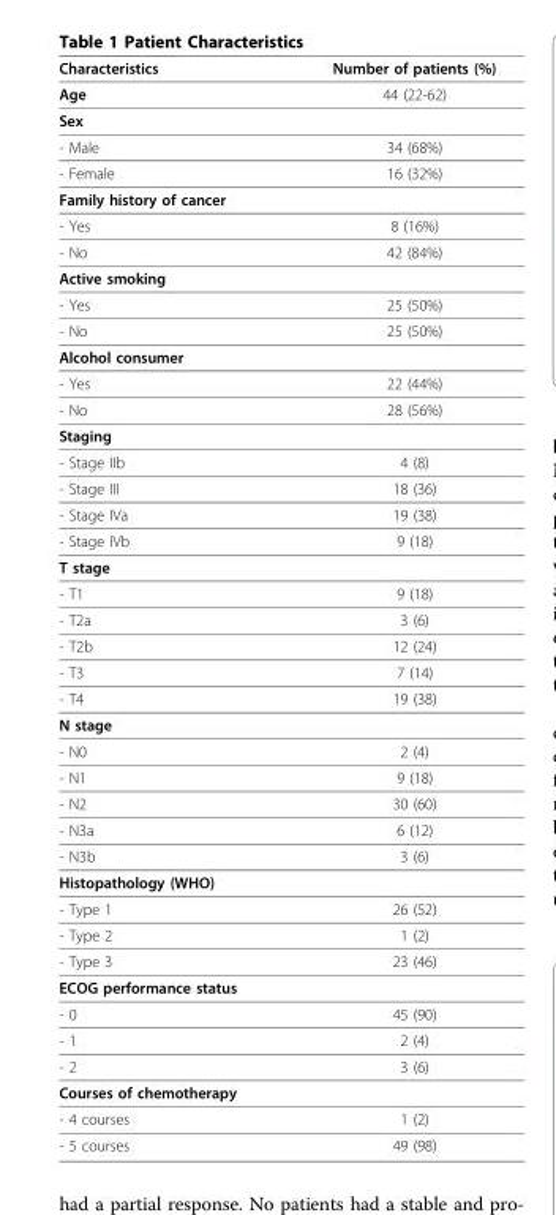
<table><thead><tr><td>Characteristics</td><td>Number of patients (%)</td></tr></thead><tbody><tr><td>Age</td><td>44 (22-62)</td></tr><tr><td colspan="2">Sex</td></tr><tr><td>- Male</td><td>34 (68%)</td></tr><tr><td>- Female</td><td>16 (32%)</td></tr><tr><td colspan="2">Family history of cancer</td></tr><tr><td>- Yes</td><td>8 (16%)</td></tr><tr><td>- No</td><td>42 (84%)</td></tr><tr><td colspan="2">Active smoking</td></tr><tr><td>- Yes</td><td>25 (50%)</td></tr><tr><td>- No</td><td>25 (50%)</td></tr><tr><td colspan="2">Alcohol consumer</td></tr><tr><td>- Yes</td><td>22 (44%)</td></tr><tr><td>- No</td><td>28 (56%)</td></tr><tr><td colspan="2">Staging</td></tr><tr><td>- Stage IIb</td><td>4 (8)</td></tr><tr><td>- Stage III</td><td>18 (36)</td></tr><tr><td>- Stage IVa</td><td>19 (38)</td></tr><tr><td>- Stage IVb</td><td>9 (18)</td></tr><tr><td colspan="2">T stage</td></tr><tr><td>- T1</td><td>9 (18)</td></tr><tr><td>- T2a</td><td>3 (6)</td></tr><tr><td>- T2b</td><td>12 (24)</td></tr><tr><td>- T3</td><td>7 (14)</td></tr><tr><td>- T4</td><td>19 (38)</td></tr><tr><td colspan="2">N stage</td></tr><tr><td>- N0</td><td>2 (4)</td></tr><tr><td>- N1</td><td>9 (18)</td></tr><tr><td>- N2</td><td>30 (60)</td></tr><tr><td>- N3a</td><td>6 (12)</td></tr><tr><td>- N3b</td><td>3 (6)</td></tr><tr><td colspan="2">Histopathology (WHO)</td></tr><tr><td>- Type 1</td><td>26 (52)</td></tr><tr><td>- Type 2</td><td>1 (2)</td></tr><tr><td>- Type 3</td><td>23 (46)</td></tr><tr><td colspan="2">ECOG performance status</td></tr><tr><td>- 0</td><td>45 (90)</td></tr><tr><td>- 1</td><td>2 (4)</td></tr><tr><td>- 2</td><td>3 (6)</td></tr><tr><td colspan="2">Courses of chemotherapy</td></tr><tr><td>- 4 courses</td><td>1 (2)</td></tr><tr><td>- 5 courses</td><td>49 (98)</td></tr></tbody></table>